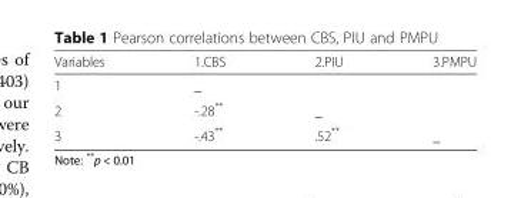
<table><thead><tr><td>Variables</td><td>1.CBS</td><td>2.PIU</td><td>3.PMPU</td></tr></thead><tbody><tr><td>1</td><td>_</td><td></td><td></td></tr><tr><td>2</td><td>-.28**</td><td>_</td><td></td></tr><tr><td>3</td><td>-.43**</td><td>.52**</td><td>_</td></tr></tbody></table>